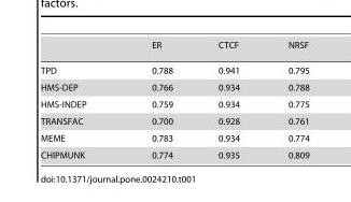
<table><thead><tr><td></td><td>ER</td><td>CTCF</td><td>NRSF</td></tr></thead><tbody><tr><td>TPD</td><td>0.788</td><td>0.941</td><td>0.795</td></tr><tr><td>HMS-DEP</td><td>0.766</td><td>0.934</td><td>0.788</td></tr><tr><td>HMS-INDEP</td><td>0.759</td><td>0.934</td><td>0.775</td></tr><tr><td>TRANSFAC</td><td>0.700</td><td>0.928</td><td>0.761</td></tr><tr><td>MEME</td><td>0.783</td><td>0.934</td><td>0.774</td></tr><tr><td>CHIPMUNK</td><td>0.774</td><td>0.935</td><td>0.809</td></tr></tbody></table>